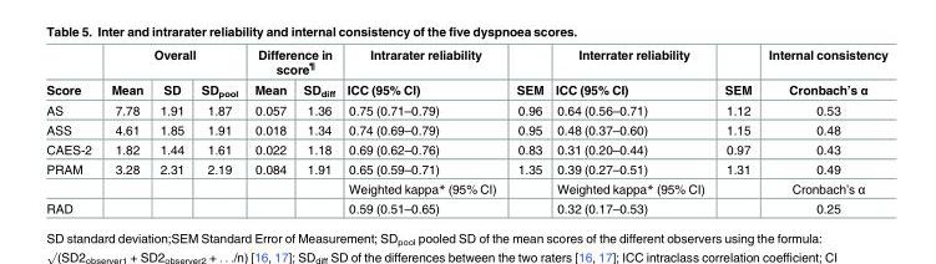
<table><thead><tr><td rowspan="2">Score</td><td colspan="3">Overall</td><td colspan="2">Difference in score<sup>¶</sup></td><td rowspan="2">Intrarater reliability ICC (95% CI)</td><td rowspan="2">SEM</td><td rowspan="2">Interrater reliability ICC (95% CI)</td><td rowspan="2">SEM</td><td rowspan="2">Internal consistency Cronbach’s α</td></tr><tr><td>Mean</td><td>SD</td><td>SD<sub>pool</sub></td><td>Mean</td><td>SD<sub>diff</sub></td></tr></thead><tbody><tr><td>AS</td><td>7.78</td><td>1.91</td><td>1.87</td><td>0.057</td><td>1.36</td><td>0.75 (0.71–0.79)</td><td>0.96</td><td>0.64 (0.56–0.71)</td><td>1.12</td><td>0.53</td></tr><tr><td>ASS</td><td>4.61</td><td>1.85</td><td>1.91</td><td>0.018</td><td>1.34</td><td>0.74 (0.69–0.79)</td><td>0.95</td><td>0.48 (0.37–0.60)</td><td>1.15</td><td>0.48</td></tr><tr><td>CAES-2</td><td>1.82</td><td>1.44</td><td>1.61</td><td>0.022</td><td>1.18</td><td>0.69 (0.62–0.76)</td><td>0.83</td><td>0.31 (0.20–0.44)</td><td>0.97</td><td>0.43</td></tr><tr><td rowspan="2">PRAM</td><td>3.28</td><td>2.31</td><td>2.19</td><td>0.084</td><td>1.91</td><td>0.65 (0.59–0.71)</td><td>1.35</td><td>0.39 (0.27–0.51)</td><td>1.31</td><td>0.49</td></tr><tr><td></td><td></td><td></td><td></td><td></td><td>Weighted kappa* (95% CI)</td><td></td><td>Weighted kappa* (95% CI)</td><td></td><td>Cronbach’s α</td></tr><tr><td>RAD</td><td></td><td></td><td></td><td></td><td></td><td>0.59 (0.51–0.65)</td><td></td><td>0.32 (0.17–0.53)</td><td></td><td>0.25</td></tr></tbody></table>